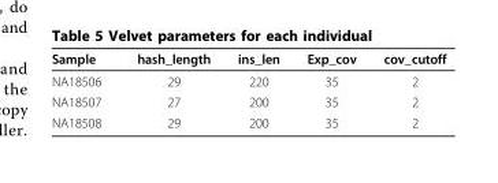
<table><thead><tr><td>Sample</td><td>hash_length</td><td>ins_len</td><td>Exp_cov</td><td>cov_cutoff</td></tr></thead><tbody><tr><td>NA18506</td><td>29</td><td>220</td><td>35</td><td>2</td></tr><tr><td>NA18507</td><td>27</td><td>200</td><td>35</td><td>2</td></tr><tr><td>NA18508</td><td>29</td><td>200</td><td>35</td><td>2</td></tr></tbody></table>